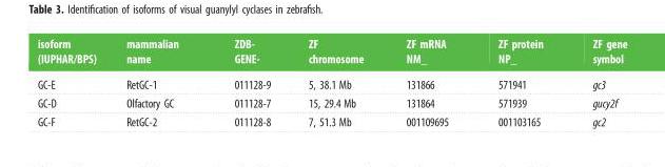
<table><thead><tr><td>isoform (IUPHAR/BPS)</td><td>mammalian name</td><td>ZDB- GENE-</td><td>ZF chromosome</td><td>ZF mRNA NM_</td><td>ZF protein NP_</td><td>ZF gene symbol</td></tr></thead><tbody><tr><td>GC-E</td><td>RetGC-1</td><td>011128-9</td><td>5, 38.1 Mb</td><td>131866</td><td>571941</td><td>gc3</td></tr><tr><td>GC-D</td><td>Olfactory GC</td><td>011128-7</td><td>15, 29.4 Mb</td><td>131864</td><td>571939</td><td>gucy2f</td></tr><tr><td>GC-F</td><td>RetGC-2</td><td>011128-8</td><td>7, 51.3 Mb</td><td>001109695</td><td>001103165</td><td>gc2</td></tr></tbody></table>